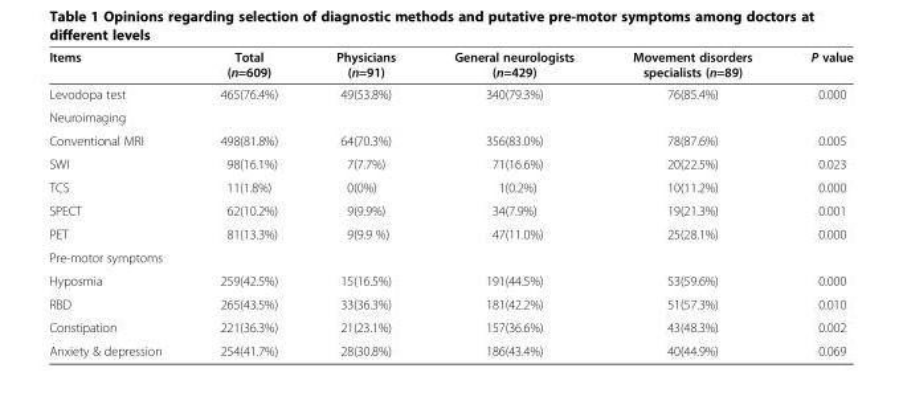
<table><thead><tr><td>Items</td><td>Total (n=609)</td><td>Physicians (n=91)</td><td>General neurologists (n=429)</td><td>Movement disorders specialists (n=89)</td><td>P value</td></tr></thead><tbody><tr><td>Levodopa test</td><td>465(76.4%)</td><td>49(53.8%)</td><td>340(79.3%)</td><td>76(85.4%)</td><td>0.000</td></tr><tr><td colspan="6">Neuroimaging</td></tr><tr><td>Conventional MRI</td><td>498(81.8%)</td><td>64(70.3%)</td><td>356(83.0%)</td><td>78(87.6%)</td><td>0.005</td></tr><tr><td>SWI</td><td>98(16.1%)</td><td>7(7.7%)</td><td>71(16.6%)</td><td>20(22.5%)</td><td>0.023</td></tr><tr><td>TCS</td><td>11(1.8%)</td><td>0(0%)</td><td>1(0.2%)</td><td>10(11.2%)</td><td>0.000</td></tr><tr><td>SPECT</td><td>62(10.2%)</td><td>9(9.9%)</td><td>34(7.9%)</td><td>19(21.3%)</td><td>0.001</td></tr><tr><td>PET</td><td>81(13.3%)</td><td>9(9.9 %)</td><td>47(11.0%)</td><td>25(28.1%)</td><td>0.000</td></tr><tr><td colspan="6">Pre-motor symptoms</td></tr><tr><td>Hyposmia</td><td>259(42.5%)</td><td>15(16.5%)</td><td>191(44.5%)</td><td>53(59.6%)</td><td>0.000</td></tr><tr><td>RBD</td><td>265(43.5%)</td><td>33(36.3%)</td><td>181(42.2%)</td><td>51(57.3%)</td><td>0.010</td></tr><tr><td>Constipation</td><td>221(36.3%)</td><td>21(23.1%)</td><td>157(36.6%)</td><td>43(48.3%)</td><td>0.002</td></tr><tr><td>Anxiety &amp; depression</td><td>254(41.7%)</td><td>28(30.8%)</td><td>186(43.4%)</td><td>40(44.9%)</td><td>0.069</td></tr></tbody></table>